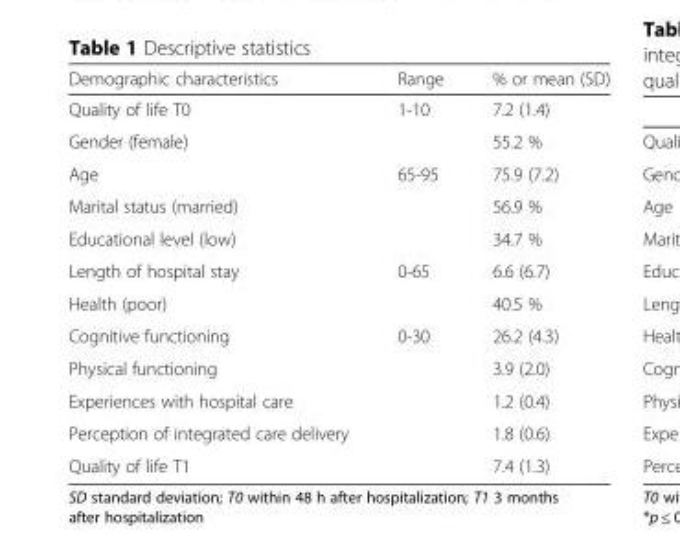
<table><thead><tr><td>Demographic characteristics</td><td>Range</td><td>% or mean (SD)</td></tr></thead><tbody><tr><td>Quality of life T0</td><td>1-10</td><td>7.2 (1.4)</td></tr><tr><td>Gender (female)</td><td></td><td>55.2 %</td></tr><tr><td>Age</td><td>65-95</td><td>75.9 (7.2)</td></tr><tr><td>Marital status (married)</td><td></td><td>56.9 %</td></tr><tr><td>Educational level (low)</td><td></td><td>34.7 %</td></tr><tr><td>Length of hospital stay</td><td>0-65</td><td>6.6 (6.7)</td></tr><tr><td>Health (poor)</td><td></td><td>40.5 %</td></tr><tr><td>Cognitive functioning</td><td>0-30</td><td>26.2 (4.3)</td></tr><tr><td>Physical functioning</td><td></td><td>3.9 (2.0)</td></tr><tr><td>Experiences with hospital care</td><td></td><td>1.2 (0.4)</td></tr><tr><td>Perception of integrated care delivery</td><td></td><td>1.8 (0.6)</td></tr><tr><td>Quality of life T1</td><td></td><td>7.4 (1.3)</td></tr></tbody></table>